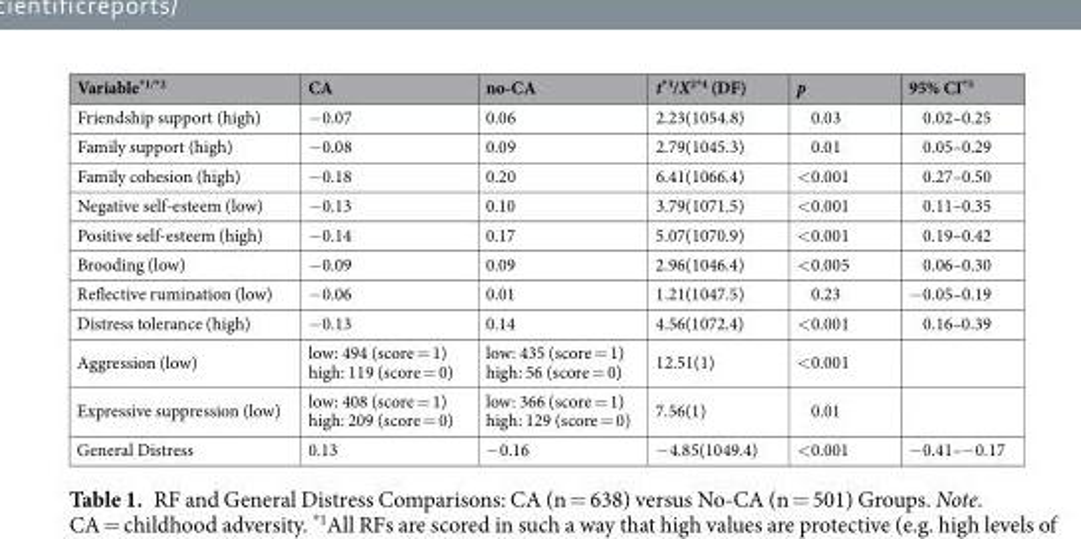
<table><thead><tr><td>Variable<sup>*1/*2</sup></td><td>CA</td><td>no-CA</td><td>t<sup>*3</sup>/X<sup>2*4</sup> (DF)</td><td>p</td><td>95% CI<sup>*5</sup></td></tr></thead><tbody><tr><td>Friendship support (high)</td><td>−0.07</td><td>0.06</td><td>2.23(1054.8)</td><td>0.03</td><td>0.02–0.25</td></tr><tr><td>Family support (high)</td><td>−0.08</td><td>0.09</td><td>2.79(1045.3)</td><td>0.01</td><td>0.05–0.29</td></tr><tr><td>Family cohesion (high)</td><td>−0.18</td><td>0.20</td><td>6.41(1066.4)</td><td>&lt;0.001</td><td>0.27–0.50</td></tr><tr><td>Negative self-esteem (low)</td><td>−0.13</td><td>0.10</td><td>3.79(1071.5)</td><td>&lt;0.001</td><td>0.11–0.35</td></tr><tr><td>Positive self-esteem (high)</td><td>−0.14</td><td>0.17</td><td>5.07(1070.9)</td><td>&lt;0.001</td><td>0.19–0.42</td></tr><tr><td>Brooding (low)</td><td>−0.09</td><td>0.09</td><td>2.96(1046.4)</td><td>&lt;0.005</td><td>0.06–0.30</td></tr><tr><td>Reflective rumination (low)</td><td>−0.06</td><td>0.01</td><td>1.21(1047.5)</td><td>0.23</td><td>−0.05–0.19</td></tr><tr><td>Distress tolerance (high)</td><td>−0.13</td><td>0.14</td><td>4.56(1072.4)</td><td>&lt;0.001</td><td>0.16–0.39</td></tr><tr><td>Aggression (low)</td><td>low: 494 (score = 1) high: 119 (score = 0)</td><td>low: 435 (score = 1) high: 56 (score = 0)</td><td>12.51(1)</td><td>&lt;0.001</td><td></td></tr><tr><td>Expressive suppression (low)</td><td>low: 408 (score = 1) high: 209 (score = 0)</td><td>low: 366 (score = 1) high: 129 (score = 0)</td><td>7.56(1)</td><td>0.01</td><td></td></tr><tr><td>General Distress</td><td>0.13</td><td>−0.16</td><td>−4.85(1049.4)</td><td>&lt;0.001</td><td>−0.41–−0.17</td></tr></tbody></table>